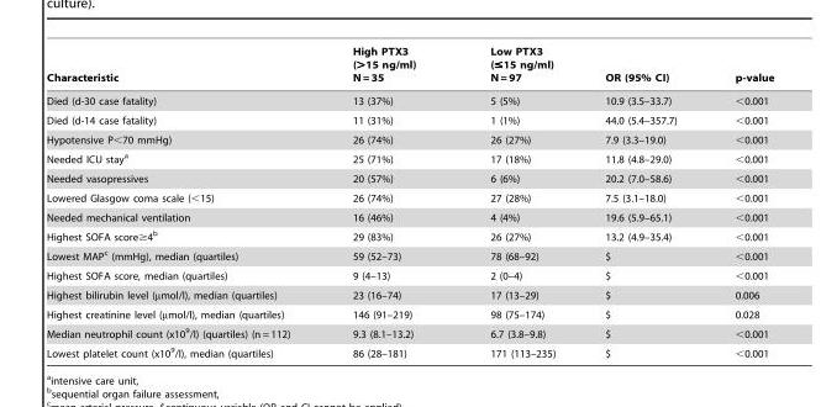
<table><thead><tr><td>Characteristic</td><td>High PTX3 (&gt;15 ng/ml) N = 35</td><td>Low PTX3 (≤15 ng/ml) N = 97</td><td>OR (95% CI)</td><td>p-value</td></tr></thead><tbody><tr><td>Died (d-30 case fatality)</td><td>13 (37%)</td><td>5 (5%)</td><td>10.9 (3.5–33.7)</td><td>&lt;0.001</td></tr><tr><td>Died (d-14 case fatality)</td><td>11 (31%)</td><td>1 (1%)</td><td>44.0 (5.4–357.7)</td><td>&lt;0.001</td></tr><tr><td>Hypotensive P&lt;70 mmHg)</td><td>26 (74%)</td><td>26 (27%)</td><td>7.9 (3.3–19.0)</td><td>&lt;0.001</td></tr><tr><td>Needed ICU stay<sup>a</sup></td><td>25 (71%)</td><td>17 (18%)</td><td>11.8 (4.8–29.0)</td><td>&lt;0.001</td></tr><tr><td>Needed vasopressives</td><td>20 (57%)</td><td>6 (6%)</td><td>20.2 (7.0–58.6)</td><td>&lt;0.001</td></tr><tr><td>Lowered Glasgow coma scale (&lt;15)</td><td>26 (74%)</td><td>27 (28%)</td><td>7.5 (3.1–18.0)</td><td>&lt;0.001</td></tr><tr><td>Needed mechanical ventilation</td><td>16 (46%)</td><td>4 (4%)</td><td>19.6 (5.9–65.1)</td><td>&lt;0.001</td></tr><tr><td>Highest SOFA score≥4<sup>b</sup></td><td>29 (83%)</td><td>26 (27%)</td><td>13.2 (4.9–35.4)</td><td>&lt;0.001</td></tr><tr><td>Lowest MAP<sup>c</sup> (mmHg), median (quartiles)</td><td>59 (52–73)</td><td>78 (68–92)</td><td>$</td><td>&lt;0.001</td></tr><tr><td>Highest SOFA score, median (quartiles)</td><td>9 (4–13)</td><td>2 (0–4)</td><td>$</td><td>&lt;0.001</td></tr><tr><td>Highest bilirubin level (µmol/l), median (quartiles)</td><td>23 (16–74)</td><td>17 (13–29)</td><td>$</td><td>0.006</td></tr><tr><td>Highest creatinine level (µmol/l), median (quartiles)</td><td>146 (91–219)</td><td>98 (75–174)</td><td>$</td><td>0.028</td></tr><tr><td>Median neutrophil count (x10<sup>9</sup>/l) (quartiles) (n = 112)</td><td>9.3 (8.1–13.2)</td><td>6.7 (3.8–9.8)</td><td>$</td><td>&lt;0.001</td></tr><tr><td>Lowest platelet count (x10<sup>9</sup>/l), median (quartiles)</td><td>86 (28–181)</td><td>171 (113–235)</td><td>$</td><td>&lt;0.001</td></tr></tbody></table>